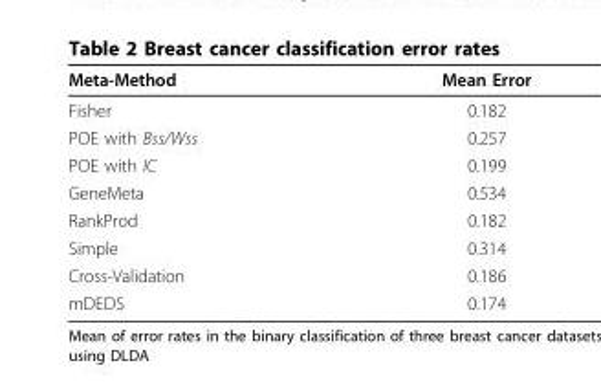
<table><thead><tr><td>Meta-Method</td><td>Mean Error</td></tr></thead><tbody><tr><td>Fisher</td><td>0.182</td></tr><tr><td>POE with Bss/Wss</td><td>0.257</td></tr><tr><td>POE with IC</td><td>0.199</td></tr><tr><td>GeneMeta</td><td>0.534</td></tr><tr><td>RankProd</td><td>0.182</td></tr><tr><td>Simple</td><td>0.314</td></tr><tr><td>Cross-Validation</td><td>0.186</td></tr><tr><td>mDEDS</td><td>0.174</td></tr></tbody></table>